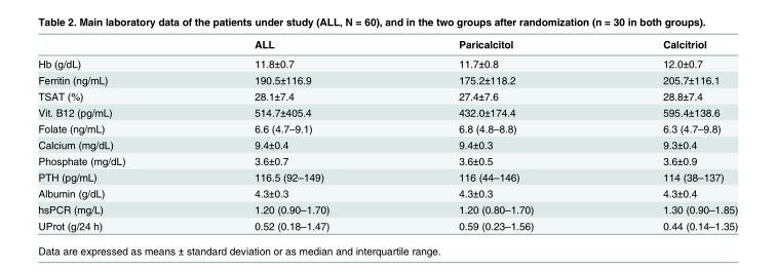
<table><thead><tr><td></td><td>ALL</td><td>Paricalcitol</td><td>Calcitriol</td></tr></thead><tbody><tr><td>Hb (g/dL)</td><td>11.8±0.7</td><td>11.7±0.8</td><td>12.0±0.7</td></tr><tr><td>Ferritin (ng/mL)</td><td>190.5±116.9</td><td>175.2±118.2</td><td>205.7±116.1</td></tr><tr><td>TSAT (%)</td><td>28.1±7.4</td><td>27.4±7.6</td><td>28.8±7.4</td></tr><tr><td>Vit. B12 (pg/mL)</td><td>514.7±405.4</td><td>432.0±174.4</td><td>595.4±138.6</td></tr><tr><td>Folate (ng/mL)</td><td>6.6 (4.7–9.1)</td><td>6.8 (4.8–8.8)</td><td>6.3 (4.7–9.8)</td></tr><tr><td>Calcium (mg/dL)</td><td>9.4±0.4</td><td>9.4±0.3</td><td>9.3±0.4</td></tr><tr><td>Phosphate (mg/dL)</td><td>3.6±0.7</td><td>3.6±0.5</td><td>3.6±0.9</td></tr><tr><td>PTH (pg/mL)</td><td>116.5 (92–149)</td><td>116 (44–146)</td><td>114 (38–137)</td></tr><tr><td>Albumin (g/dL)</td><td>4.3±0.3</td><td>4.3±0.3</td><td>4.3±0.4</td></tr><tr><td>hsPCR (mg/L)</td><td>1.20 (0.90–1.70)</td><td>1.20 (0.80–1.70)</td><td>1.30 (0.90–1.85)</td></tr><tr><td>UProt (g/24 h)</td><td>0.52 (0.18–1.47)</td><td>0.59 (0.23–1.56)</td><td>0.44 (0.14–1.35)</td></tr></tbody></table>